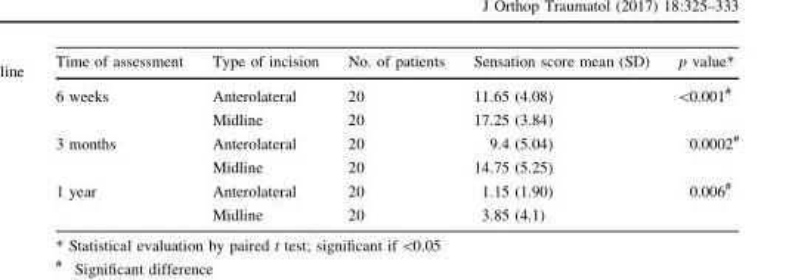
<table><thead><tr><td>Time of assessment</td><td>Type of incision</td><td>No. of patients</td><td>Sensation score mean (SD)</td><td>p value*</td></tr></thead><tbody><tr><td rowspan="2">6 weeks</td><td>Anterolateral</td><td>20</td><td>11.65 (4.08)</td><td rowspan="2">&lt;0.001<sup>#</sup></td></tr><tr><td>Midline</td><td>20</td><td>17.25 (3.84)</td></tr><tr><td rowspan="2">3 months</td><td>Anterolateral</td><td>20</td><td>9.4 (5.04)</td><td rowspan="2">0.0002<sup>#</sup></td></tr><tr><td>Midline</td><td>20</td><td>14.75 (5.25)</td></tr><tr><td rowspan="2">1 year</td><td>Anterolateral</td><td>20</td><td>1.15 (1.90)</td><td rowspan="2">0.006<sup>#</sup></td></tr><tr><td>Midline</td><td>20</td><td>3.85 (4.1)</td></tr></tbody></table>